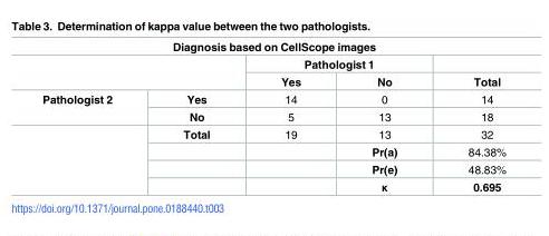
<table><thead><tr><td colspan="5">Diagnosis based on CellScope images</td></tr><tr><td rowspan="2"></td><td rowspan="2"></td><td colspan="2">Pathologist 1</td><td rowspan="2">Total</td></tr><tr><td>Yes</td><td>No</td></tr></thead><tbody><tr><td rowspan="6">Pathologist 2</td><td>Yes</td><td>14</td><td>0</td><td>14</td></tr><tr><td>No</td><td>5</td><td>13</td><td>18</td></tr><tr><td>Total</td><td>19</td><td>13</td><td>32</td></tr><tr><td></td><td></td><td>Pr(a)</td><td>84.38%</td></tr><tr><td></td><td></td><td>Pr(e)</td><td>48.83%</td></tr><tr><td></td><td></td><td>κ</td><td>0.695</td></tr></tbody></table>